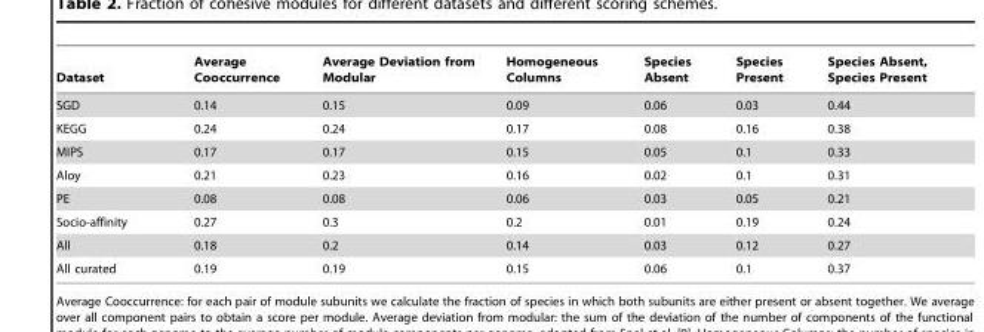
<table><thead><tr><td>Dataset</td><td>Average Cooccurrence</td><td>Average Deviation from Modular</td><td>Homogeneous Columns</td><td>Species Absent</td><td>Species Present</td><td>Species Absent, Species Present</td></tr></thead><tbody><tr><td>SGD</td><td>0.14</td><td>0.15</td><td>0.09</td><td>0.06</td><td>0.03</td><td>0.44</td></tr><tr><td>KEGG</td><td>0.24</td><td>0.24</td><td>0.17</td><td>0.08</td><td>0.16</td><td>0.38</td></tr><tr><td>MIPS</td><td>0.17</td><td>0.17</td><td>0.15</td><td>0.05</td><td>0.1</td><td>0.33</td></tr><tr><td>Aloy</td><td>0.21</td><td>0.23</td><td>0.16</td><td>0.02</td><td>0.1</td><td>0.31</td></tr><tr><td>PE</td><td>0.08</td><td>0.08</td><td>0.06</td><td>0.03</td><td>0.05</td><td>0.21</td></tr><tr><td>Socio-affinity</td><td>0.27</td><td>0.3</td><td>0.2</td><td>0.01</td><td>0.19</td><td>0.24</td></tr><tr><td>All</td><td>0.18</td><td>0.2</td><td>0.14</td><td>0.03</td><td>0.12</td><td>0.27</td></tr><tr><td>All curated</td><td>0.19</td><td>0.19</td><td>0.15</td><td>0.06</td><td>0.1</td><td>0.37</td></tr></tbody></table>